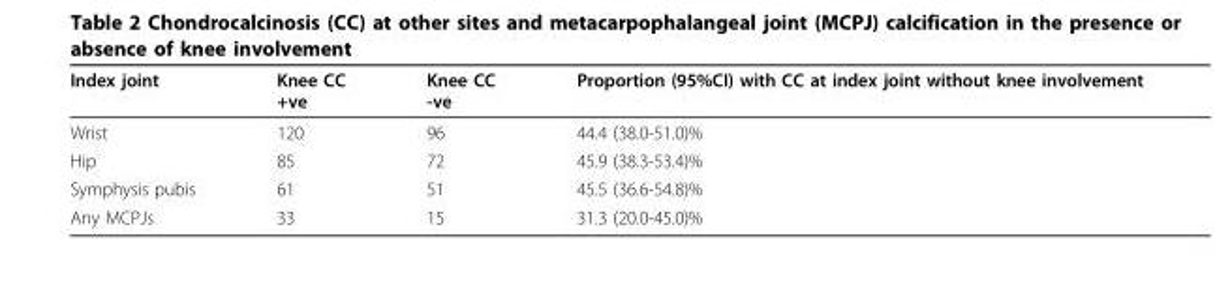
<table><thead><tr><td>Index joint</td><td>Knee CC +ve</td><td>Knee CC -ve</td><td>Proportion (95%CI) with CC at index joint without knee involvement</td></tr></thead><tbody><tr><td>Wrist</td><td>120</td><td>96</td><td>44.4 (38.0-51.0)%</td></tr><tr><td>Hip</td><td>85</td><td>72</td><td>45.9 (38.3-53.4)%</td></tr><tr><td>Symphysis pubis</td><td>61</td><td>51</td><td>45.5 (36.6-54.8)%</td></tr><tr><td>Any MCPJs</td><td>33</td><td>15</td><td>31.3 (20.0-45.0)%</td></tr></tbody></table>